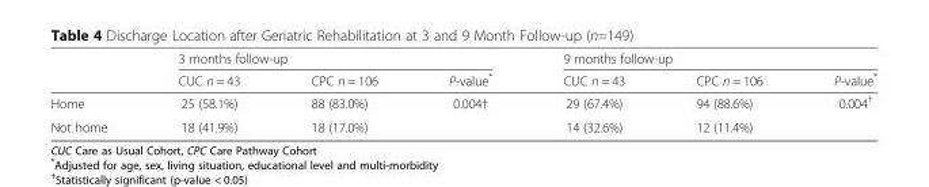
<table><thead><tr><td rowspan="2"></td><td colspan="3">3 months follow-up</td><td colspan="3">9 months follow-up</td></tr><tr><td>CUC n = 43</td><td>CPC n = 106</td><td>P-value*</td><td>CUC n = 43</td><td>CPC n = 106</td><td>P-value*</td></tr></thead><tbody><tr><td>Home</td><td>25 (58.1%)</td><td>88 (83.0%)</td><td>0.004†</td><td>29 (67.4%)</td><td>94 (88.6%)</td><td>0.004<sup>†</sup></td></tr><tr><td>Not home</td><td>18 (41.9%)</td><td>18 (17.0%)</td><td></td><td>14 (32.6%)</td><td>12 (11.4%)</td><td></td></tr></tbody></table>